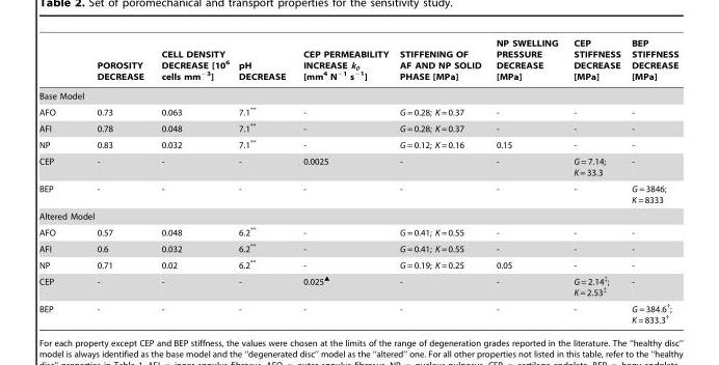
<table><thead><tr><td></td><td>POROSITY DECREASE</td><td>CELL DENSITY DECREASE [10<sup>6</sup> cells mm<sup>−3</sup>]</td><td>pH DECREASE</td><td>CEP PERMEABILITY INCREASE k<sub>0</sub> [mm<sup>4</sup> N<sup>−1</sup> s<sup>−1</sup>]</td><td>STIFFENING OF AF AND NP SOLID PHASE [MPa]</td><td>NP SWELLING PRESSURE DECREASE [MPa]</td><td>CEP STIFFNESS DECREASE [MPa]</td><td>BEP STIFFNESS DECREASE [MPa]</td></tr></thead><tbody><tr><td colspan="9">Base Model</td></tr><tr><td>AFO</td><td>0.73</td><td>0.063</td><td>7.1**</td><td>-</td><td>G = 0.28; K = 0.37</td><td>-</td><td>-</td><td>-</td></tr><tr><td>AFI</td><td>0.78</td><td>0.048</td><td>7.1**</td><td>-</td><td>G = 0.28; K = 0.37</td><td>-</td><td>-</td><td>-</td></tr><tr><td>NP</td><td>0.83</td><td>0.032</td><td>7.1**</td><td>-</td><td>G = 0.12; K = 0.16</td><td>0.15</td><td>-</td><td>-</td></tr><tr><td>CEP</td><td>-</td><td>-</td><td>-</td><td>0.0025</td><td>-</td><td>-</td><td>G = 7.14; K = 33.3</td><td>-</td></tr><tr><td>BEP</td><td>-</td><td>-</td><td>-</td><td>-</td><td>-</td><td>-</td><td>-</td><td>G = 3846; K = 8333</td></tr><tr><td colspan="9">Altered Model</td></tr><tr><td>AFO</td><td>0.57</td><td>0.048</td><td>6.2**</td><td>-</td><td>G = 0.41; K = 0.55</td><td>-</td><td>-</td><td>-</td></tr><tr><td>AFI</td><td>0.6</td><td>0.032</td><td>6.2**</td><td>-</td><td>G = 0.41; K = 0.55</td><td>-</td><td>-</td><td>-</td></tr><tr><td>NP</td><td>0.71</td><td>0.02</td><td>6.2**</td><td>-</td><td>G = 0.19; K = 0.25</td><td>0.05</td><td>-</td><td>-</td></tr><tr><td>CEP</td><td>-</td><td>-</td><td>-</td><td>0.025▴</td><td>-</td><td>-</td><td>G = 2.14‡; K = 2.53‡</td><td>-</td></tr><tr><td>BEP</td><td>-</td><td>-</td><td>-</td><td>-</td><td>-</td><td>-</td><td>-</td><td>G = 384.6†; K = 833.3†</td></tr></tbody></table>